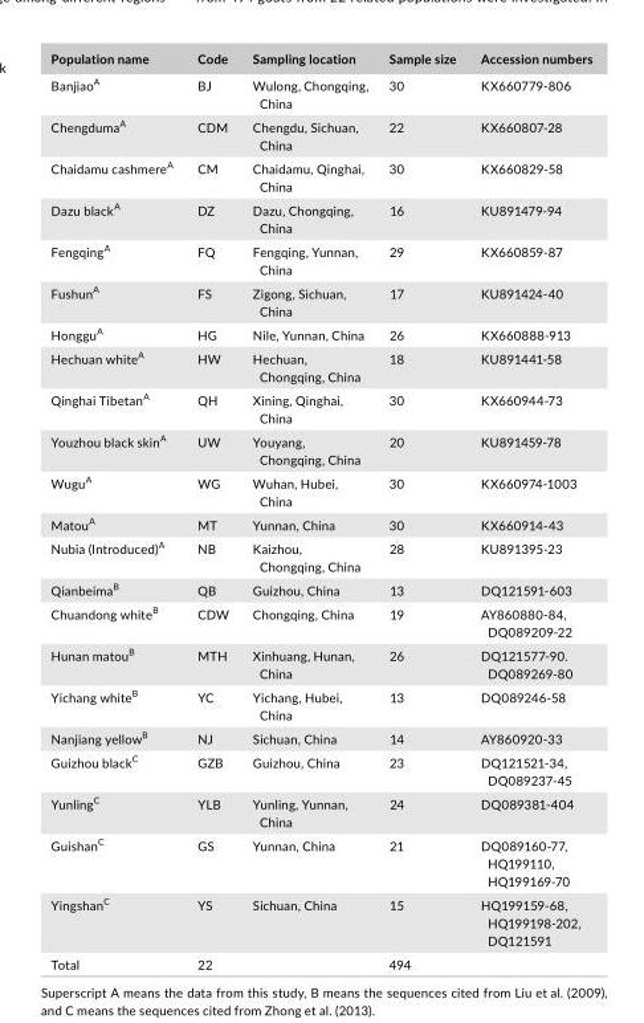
<table><thead><tr><td>Population name</td><td>Code</td><td>Sampling location</td><td>Sample size</td><td>Accession numbers</td></tr></thead><tbody><tr><td>Banjiao<sup>A</sup></td><td>BJ</td><td>Wulong, Chongqing, China</td><td>30</td><td>KX660779- 806</td></tr><tr><td>Chengduma<sup>A</sup></td><td>CDM</td><td>Chengdu, Sichuan, China</td><td>22</td><td>KX660807- 28</td></tr><tr><td>Chaidamu cashmere<sup>A</sup></td><td>CM</td><td>Chaidamu, Qinghai, China</td><td>30</td><td>KX660829- 58</td></tr><tr><td>Dazu black<sup>A</sup></td><td>DZ</td><td>Dazu, Chongqing, China</td><td>16</td><td>KU891479- 94</td></tr><tr><td>Fengqing<sup>A</sup></td><td>FQ</td><td>Fengqing, Yunnan, China</td><td>29</td><td>KX660859- 87</td></tr><tr><td>Fushun<sup>A</sup></td><td>FS</td><td>Zigong, Sichuan, China</td><td>17</td><td>KU891424- 40</td></tr><tr><td>Honggu<sup>A</sup></td><td>HG</td><td>Nile, Yunnan, China</td><td>26</td><td>KX660888- 913</td></tr><tr><td>Hechuan white<sup>A</sup></td><td>HW</td><td>Hechuan, Chongqing, China</td><td>18</td><td>KU891441- 58</td></tr><tr><td>Qinghai Tibetan<sup>A</sup></td><td>QH</td><td>Xining, Qinghai, China</td><td>30</td><td>KX660944- 73</td></tr><tr><td>Youzhou black skin<sup>A</sup></td><td>UW</td><td>Youyang, Chongqing, China</td><td>20</td><td>KU891459- 78</td></tr><tr><td>Wugu<sup>A</sup></td><td>WG</td><td>Wuhan, Hubei, China</td><td>30</td><td>KX660974- 1003</td></tr><tr><td>Matou<sup>A</sup></td><td>MT</td><td>Yunnan, China</td><td>30</td><td>KX660914- 43</td></tr><tr><td>Nubia (Introduced)<sup>A</sup></td><td>NB</td><td>Kaizhou, Chongqing, China</td><td>28</td><td>KU891395- 23</td></tr><tr><td>Qianbeima<sup>B</sup></td><td>QB</td><td>Guizhou, China</td><td>13</td><td>DQ121591- 603</td></tr><tr><td>Chuandong white<sup>B</sup></td><td>CDW</td><td>Chongqing, China</td><td>19</td><td>AY860880- 84, DQ089209- 22</td></tr><tr><td>Hunan matou<sup>B</sup></td><td>MTH</td><td>Xinhuang, Hunan, China</td><td>26</td><td>DQ121577- 90. DQ089269- 80</td></tr><tr><td>Yichang white<sup>B</sup></td><td>YC</td><td>Yichang, Hubei, China</td><td>13</td><td>DQ089246- 58</td></tr><tr><td>Nanjiang yellow<sup>B</sup></td><td>NJ</td><td>Sichuan, China</td><td>14</td><td>AY860920- 33</td></tr><tr><td>Guizhou black<sup>C</sup></td><td>GZB</td><td>Guizhou, China</td><td>23</td><td>DQ121521- 34, DQ089237- 45</td></tr><tr><td>Yunling<sup>C</sup></td><td>YLB</td><td>Yunling, Yunnan, China</td><td>24</td><td>DQ089381- 404</td></tr><tr><td>Guishan<sup>C</sup></td><td>GS</td><td>Yunnan, China</td><td>21</td><td>DQ089160- 77, HQ199110, HQ199169- 70</td></tr><tr><td>Yingshan<sup>C</sup></td><td>YS</td><td>Sichuan, China</td><td>15</td><td>HQ199159- 68, HQ199198- 202, DQ121591</td></tr><tr><td>Total</td><td>22</td><td></td><td>494</td><td></td></tr></tbody></table>